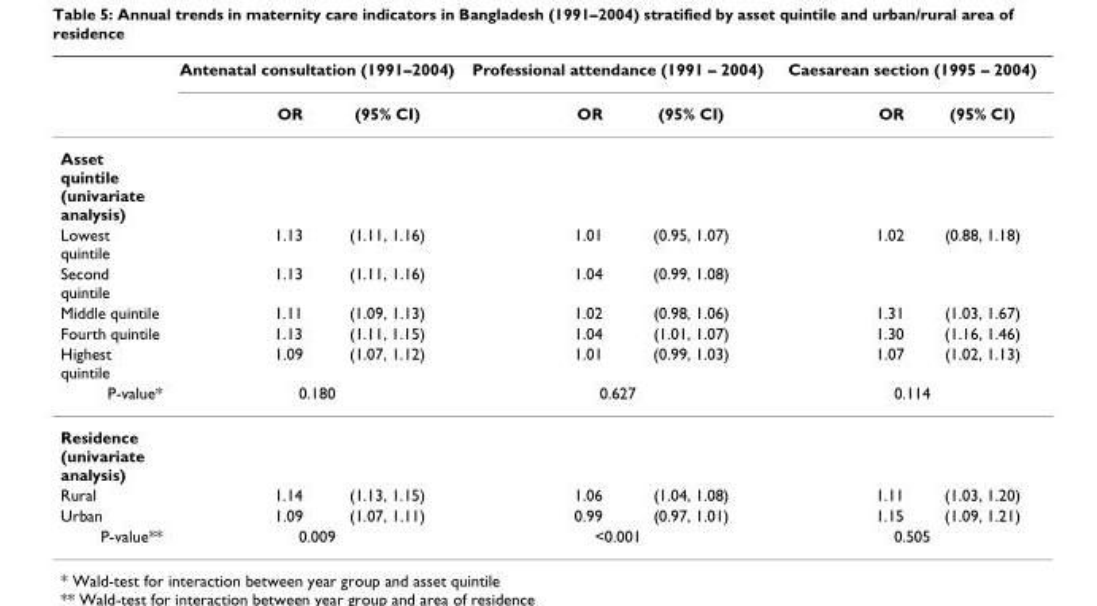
<table><thead><tr><td rowspan="2"></td><td colspan="2">Antenatal consultation (1991–2004)</td><td colspan="2">Professional attendance (1991 – 2004)</td><td colspan="2">Caesarean section (1995 – 2004)</td></tr><tr><td>OR</td><td>(95% CI)</td><td>OR</td><td>(95% CI)</td><td>OR</td><td>(95% CI)</td></tr></thead><tbody><tr><td colspan="7">Asset quintile (univariate analysis)</td></tr><tr><td>Lowest quintile</td><td>1.13</td><td>(1.11, 1.16)</td><td>1.01</td><td>(0.95, 1.07)</td><td>1.02</td><td>(0.88, 1.18)</td></tr><tr><td>Second quintile</td><td>1.13</td><td>(1.11, 1.16)</td><td>1.04</td><td>(0.99, 1.08)</td><td></td><td></td></tr><tr><td>Middle quintile</td><td>1.11</td><td>(1.09, 1.13)</td><td>1.02</td><td>(0.98, 1.06)</td><td>1.31</td><td>(1.03, 1.67)</td></tr><tr><td>Fourth quintile</td><td>1.13</td><td>(1.11, 1.15)</td><td>1.04</td><td>(1.01, 1.07)</td><td>1.30</td><td>(1.16, 1.46)</td></tr><tr><td>Highest quintile</td><td>1.09</td><td>(1.07, 1.12)</td><td>1.01</td><td>(0.99, 1.03)</td><td>1.07</td><td>(1.02, 1.13)</td></tr><tr><td>P-value*</td><td colspan="2">0.180</td><td colspan="2">0.627</td><td colspan="2">0.114</td></tr><tr><td colspan="7">Residence (univariate analysis)</td></tr><tr><td>Rural</td><td>1.14</td><td>(1.13, 1.15)</td><td>1.06</td><td>(1.04, 1.08)</td><td>1.11</td><td>(1.03, 1.20)</td></tr><tr><td>Urban</td><td>1.09</td><td>(1.07, 1.11)</td><td>0.99</td><td>(0.97, 1.01)</td><td>1.15</td><td>(1.09, 1.21)</td></tr><tr><td>P-value**</td><td colspan="2">0.009</td><td colspan="2">&lt;0.001</td><td colspan="2">0.505</td></tr></tbody></table>